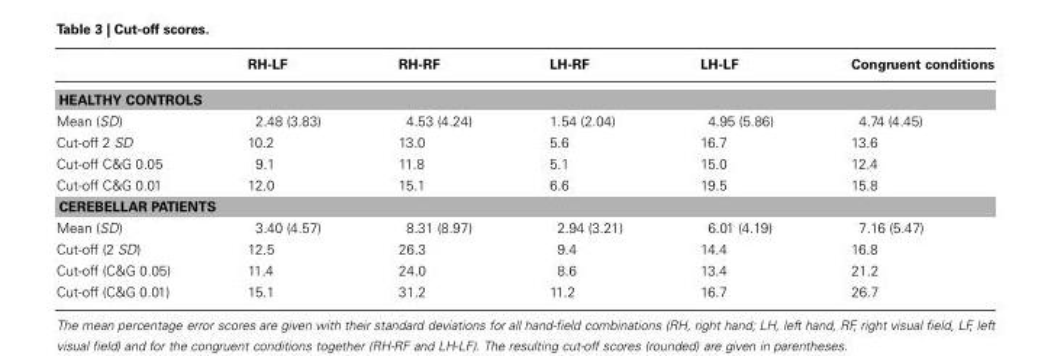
<table><thead><tr><td></td><td>RH-LF</td><td>RH-RF</td><td>LH-RF</td><td>LH-LF</td><td>Congruent conditions</td></tr></thead><tbody><tr><td colspan="6">HEALTHY CONTROLS</td></tr><tr><td>Mean (SD)</td><td>2.48 (3.83)</td><td>4.53 (4.24)</td><td>1.54 (2.04)</td><td>4.95 (5.86)</td><td>4.74 (4.45)</td></tr><tr><td>Cut-off 2 SD</td><td>10.2</td><td>13.0</td><td>5.6</td><td>16.7</td><td>13.6</td></tr><tr><td>Cut-off C&amp;G 0.05</td><td>9.1</td><td>11.8</td><td>5.1</td><td>15.0</td><td>12.4</td></tr><tr><td>Cut-off C&amp;G 0.01</td><td>12.0</td><td>15.1</td><td>6.6</td><td>19.5</td><td>15.8</td></tr><tr><td colspan="6">CEREBELLAR PATIENTS</td></tr><tr><td>Mean (SD)</td><td>3.40 (4.57)</td><td>8.31 (8.97)</td><td>2.94 (3.21)</td><td>6.01 (4.19)</td><td>7.16 (5.47)</td></tr><tr><td>Cut-off (2 SD)</td><td>12.5</td><td>26.3</td><td>9.4</td><td>14.4</td><td>16.8</td></tr><tr><td>Cut-off (C&amp;G 0.05)</td><td>11.4</td><td>24.0</td><td>8.6</td><td>13.4</td><td>21.2</td></tr><tr><td>Cut-off (C&amp;G 0.01)</td><td>15.1</td><td>31.2</td><td>11.2</td><td>16.7</td><td>26.7</td></tr></tbody></table>